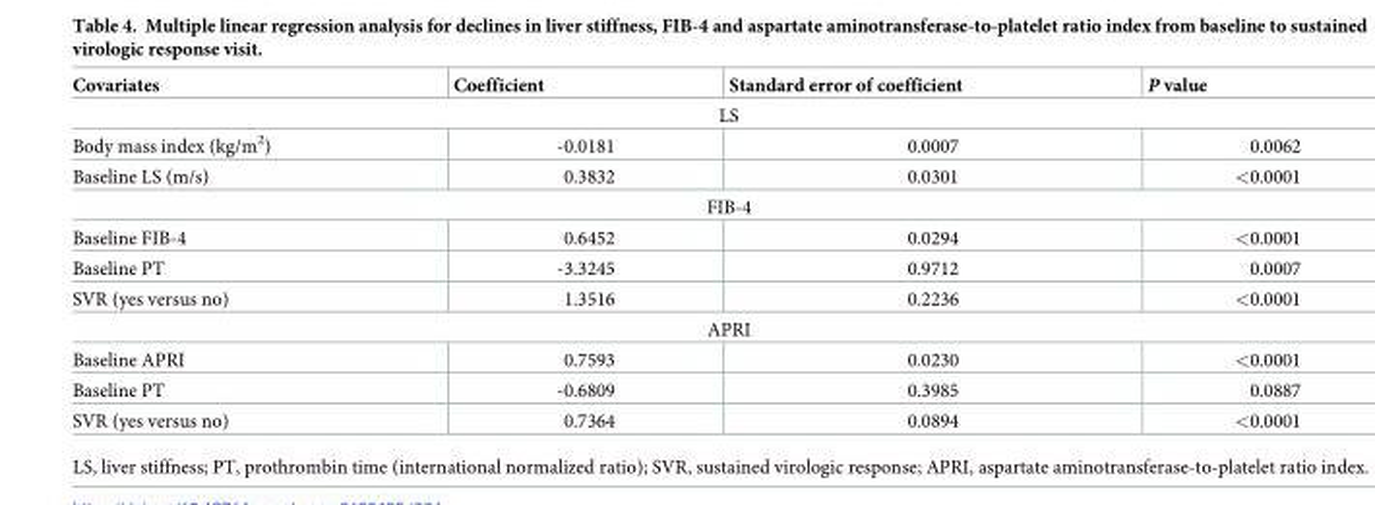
<table><thead><tr><td>Covariates</td><td>Coefficient</td><td>Standard error of coefficient</td><td>P value</td></tr></thead><tbody><tr><td colspan="4">LS</td></tr><tr><td>Body mass index (kg/m<sup>2</sup>)</td><td>-0.0181</td><td>0.0007</td><td>0.0062</td></tr><tr><td>Baseline LS (m/s)</td><td>0.3832</td><td>0.0301</td><td>&lt;0.0001</td></tr><tr><td colspan="4">FIB-4</td></tr><tr><td>Baseline FIB-4</td><td>0.6452</td><td>0.0294</td><td>&lt;0.0001</td></tr><tr><td>Baseline PT</td><td>-3.3245</td><td>0.9712</td><td>0.0007</td></tr><tr><td>SVR (yes versus no)</td><td>1.3516</td><td>0.2236</td><td>&lt;0.0001</td></tr><tr><td colspan="4">APRI</td></tr><tr><td>Baseline APRI</td><td>0.7593</td><td>0.0230</td><td>&lt;0.0001</td></tr><tr><td>Baseline PT</td><td>-0.6809</td><td>0.3985</td><td>0.0887</td></tr><tr><td>SVR (yes versus no)</td><td>0.7364</td><td>0.0894</td><td>&lt;0.0001</td></tr></tbody></table>